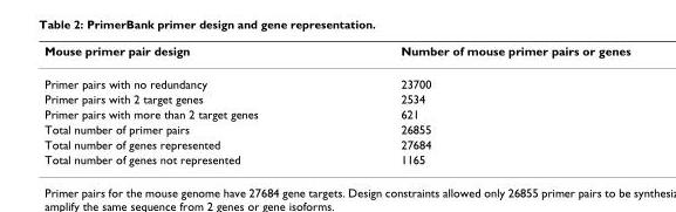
<table><thead><tr><td>Mouse primer pair design</td><td>Number of mouse primer pairs or genes</td></tr></thead><tbody><tr><td>Primer pairs with no redundancy</td><td>23700</td></tr><tr><td>Primer pairs with 2 target genes</td><td>2534</td></tr><tr><td>Primer pairs with more than 2 target genes</td><td>621</td></tr><tr><td>Total number of primer pairs</td><td>26855</td></tr><tr><td>Total number of genes represented</td><td>27684</td></tr><tr><td>Total number of genes not represented</td><td>1165</td></tr></tbody></table>